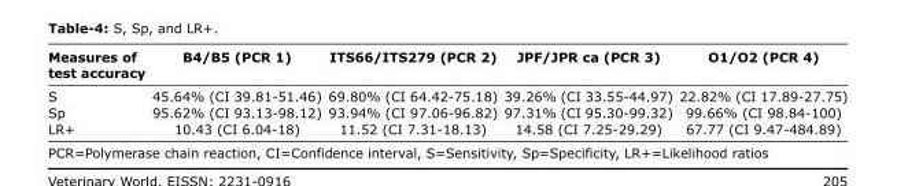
<table><thead><tr><td>Measures of test accuracy</td><td>B4/B5 (PCR 1)</td><td>ITS66/ITS279 (PCR 2)</td><td>JPF/JPR ca (PCR 3)</td><td>O1/O2 (PCR 4)</td></tr></thead><tbody><tr><td>S</td><td>45.64% (CI 39.81-51.46)</td><td>69.80% (CI 64.42-75.18)</td><td>39.26% (CI 33.55-44.97)</td><td>22.82% (CI 17.89-27.75)</td></tr><tr><td>Sp</td><td>95.62% (CI 93.13-98.12)</td><td>93.94% (CI 97.06-96.82)</td><td>97.31% (CI 95.30-99.32)</td><td>99.66% (CI 98.84-100)</td></tr><tr><td>LR+</td><td>10.43 (CI 6.04-18)</td><td>11.52 (CI 7.31-18.13)</td><td>14.58 (CI 7.25-29.29)</td><td>67.77 (CI 9.47-484.89)</td></tr></tbody></table>